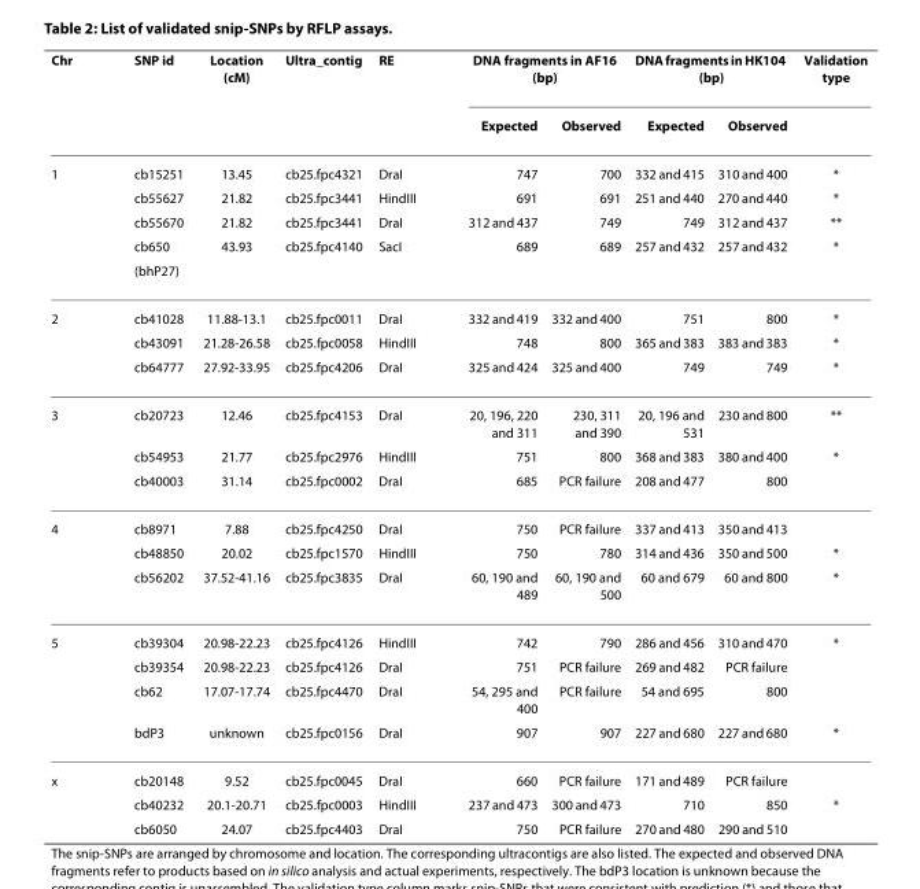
<table><thead><tr><td rowspan="2">Chr</td><td rowspan="2">SNP id</td><td rowspan="2">Location (cM)</td><td rowspan="2">Ultra_contig</td><td rowspan="2">RE</td><td colspan="2">DNA fragments in AF16 (bp)</td><td colspan="2">DNA fragments in HK104 (bp)</td><td rowspan="2">Validation type</td></tr><tr><td>Expected</td><td>Observed</td><td>Expected</td><td>Observed</td></tr></thead><tbody><tr><td rowspan="5">1</td><td>cb15251</td><td>13.45</td><td>cb25.fpc4321</td><td>DraI</td><td>747</td><td>700</td><td>332 and 415</td><td>310 and 400</td><td>*</td></tr><tr><td>cb55627</td><td>21.82</td><td>cb25.fpc3441</td><td>HindIII</td><td>691</td><td>691</td><td>251 and 440</td><td>270 and 440</td><td>*</td></tr><tr><td>cb55670</td><td>21.82</td><td>cb25.fpc3441</td><td>DraI</td><td>312 and 437</td><td>749</td><td>749</td><td>312 and 437</td><td>**</td></tr><tr><td>cb650</td><td>43.93</td><td>cb25.fpc4140</td><td>SacI</td><td>689</td><td>689</td><td>257 and 432</td><td>257 and 432</td><td>*</td></tr><tr><td>(bhP27)</td><td></td><td></td><td></td><td></td><td></td><td></td><td></td><td></td></tr><tr><td rowspan="3">2</td><td>cb41028</td><td>11.88-13.1</td><td>cb25.fpc0011</td><td>DraI</td><td>332 and 419</td><td>332 and 400</td><td>751</td><td>800</td><td>*</td></tr><tr><td>cb43091</td><td>21.28-26.58</td><td>cb25.fpc0058</td><td>HindIII</td><td>748</td><td>800</td><td>365 and 383</td><td>383 and 383</td><td>*</td></tr><tr><td>cb64777</td><td>27.92-33.95</td><td>cb25.fpc4206</td><td>DraI</td><td>325 and 424</td><td>325 and 400</td><td>749</td><td>749</td><td>*</td></tr><tr><td rowspan="3">3</td><td>cb20723</td><td>12.46</td><td>cb25.fpc4153</td><td>DraI</td><td>20, 196, 220 and 311</td><td>230, 311 and 390</td><td>20, 196 and 531</td><td>230 and 800</td><td>**</td></tr><tr><td>cb54953</td><td>21.77</td><td>cb25.fpc2976</td><td>HindIII</td><td>751</td><td>800</td><td>368 and 383</td><td>380 and 400</td><td>*</td></tr><tr><td>cb40003</td><td>31.14</td><td>cb25.fpc0002</td><td>DraI</td><td>685</td><td>PCR failure</td><td>208 and 477</td><td>800</td><td></td></tr><tr><td rowspan="3">4</td><td>cb8971</td><td>7.88</td><td>cb25.fpc4250</td><td>DraI</td><td>750</td><td>PCR failure</td><td>337 and 413</td><td>350 and 413</td><td></td></tr><tr><td>cb48850</td><td>20.02</td><td>cb25.fpc1570</td><td>HindIII</td><td>750</td><td>780</td><td>314 and 436</td><td>350 and 500</td><td>*</td></tr><tr><td>cb56202</td><td>37.52-41.16</td><td>cb25.fpc3835</td><td>DraI</td><td>60, 190 and 489</td><td>60, 190 and 500</td><td>60 and 679</td><td>60 and 800</td><td>*</td></tr><tr><td rowspan="4">5</td><td>cb39304</td><td>20.98-22.23</td><td>cb25.fpc4126</td><td>HindIII</td><td>742</td><td>790</td><td>286 and 456</td><td>310 and 470</td><td>*</td></tr><tr><td>cb39354</td><td>20.98-22.23</td><td>cb25.fpc4126</td><td>DraI</td><td>751</td><td>PCR failure</td><td>269 and 482</td><td>PCR failure</td><td></td></tr><tr><td>cb62</td><td>17.07-17.74</td><td>cb25.fpc4470</td><td>DraI</td><td>54, 295 and 400</td><td>PCR failure</td><td>54 and 695</td><td>800</td><td></td></tr><tr><td>bdP3</td><td>unknown</td><td>cb25.fpc0156</td><td>DraI</td><td>907</td><td>907</td><td>227 and 680</td><td>227 and 680</td><td>*</td></tr><tr><td rowspan="3">x</td><td>cb20148</td><td>9.52</td><td>cb25.fpc0045</td><td>DraI</td><td>660</td><td>PCR failure</td><td>171 and 489</td><td>PCR failure</td><td></td></tr><tr><td>cb40232</td><td>20.1-20.71</td><td>cb25.fpc0003</td><td>HindIII</td><td>237 and 473</td><td>300 and 473</td><td>710</td><td>850</td><td>*</td></tr><tr><td>cb6050</td><td>24.07</td><td>cb25.fpc4403</td><td>DraI</td><td>750</td><td>PCR failure</td><td>270 and 480</td><td>290 and 510</td><td></td></tr></tbody></table>